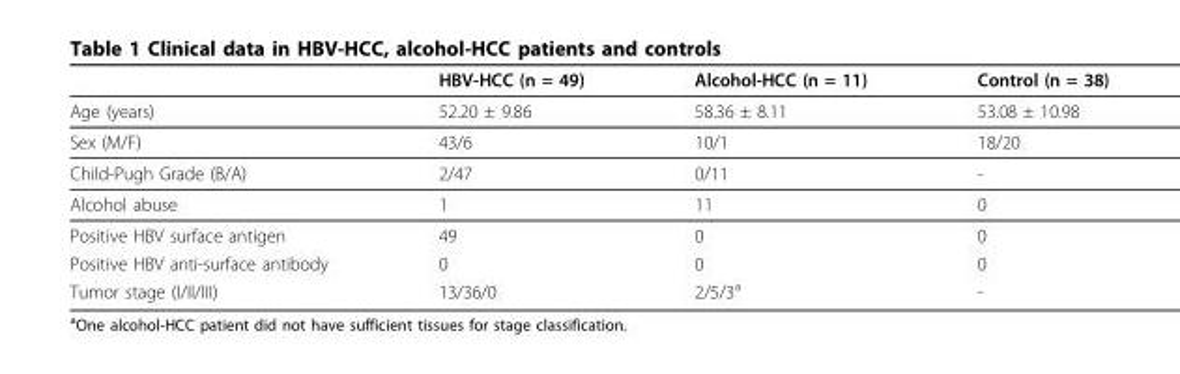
<table><thead><tr><td></td><td>HBV-HCC (n = 49)</td><td>Alcohol-HCC (n = 11)</td><td>Control (n = 38)</td></tr></thead><tbody><tr><td>Age (years)</td><td>52.20 ± 9.86</td><td>58.36 ± 8.11</td><td>53.08 ± 10.98</td></tr><tr><td>Sex (M/F)</td><td>43/6</td><td>10/1</td><td>18/20</td></tr><tr><td>Child-Pugh Grade (B/A)</td><td>2/47</td><td>0/11</td><td>-</td></tr><tr><td>Alcohol abuse</td><td>1</td><td>11</td><td>0</td></tr><tr><td>Positive HBV surface antigen</td><td>49</td><td>0</td><td>0</td></tr><tr><td>Positive HBV anti-surface antibody</td><td>0</td><td>0</td><td>0</td></tr><tr><td>Tumor stage (I/II/III)</td><td>13/36/0</td><td>2/5/3<sup>a</sup></td><td>-</td></tr></tbody></table>